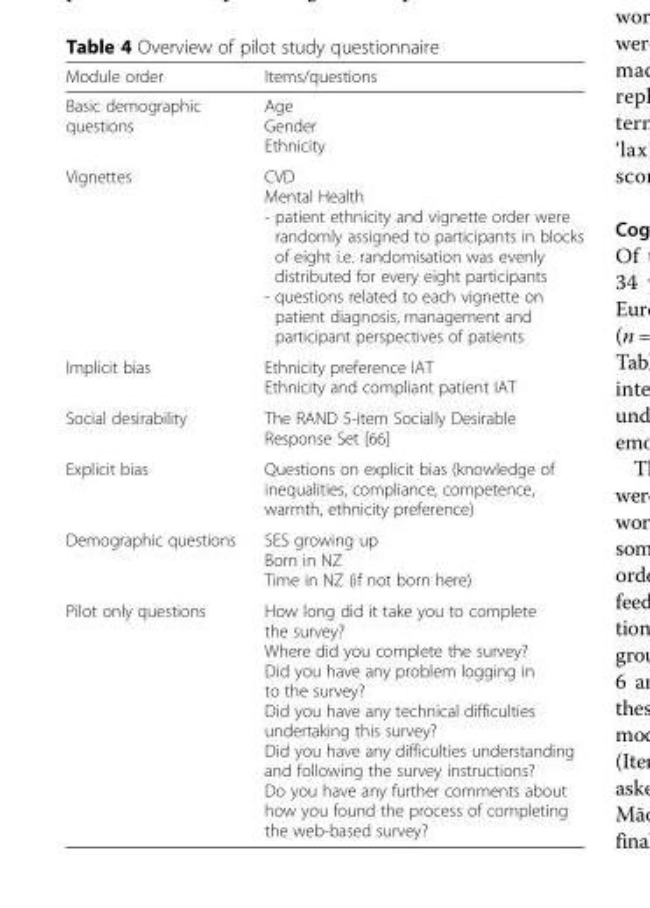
<table><thead><tr><td>Module order</td><td>Items/questions</td></tr></thead><tbody><tr><td>Basic demographic questions</td><td>Age Gender Ethnicity</td></tr><tr><td>Vignettes</td><td>CVD Mental Health - patient ethnicity and vignette order were randomly assigned to participants in blocks of eight i.e. randomisation was evenly distributed for every eight participants - questions related to each vignette on patient diagnosis, management and participant perspectives of patients</td></tr><tr><td>Implicit bias</td><td>Ethnicity preference IAT Ethnicity and compliant patient IAT</td></tr><tr><td>Social desirability</td><td>The RAND 5-item Socially Desirable Response Set [66]</td></tr><tr><td>Explicit bias</td><td>Questions on explicit bias (knowledge of inequalities, compliance, competence, warmth, ethnicity preference)</td></tr><tr><td>Demographic questions</td><td>SES growing up Born in NZ Time in NZ (if not born here)</td></tr><tr><td>Pilot only questions</td><td>How long did it take you to complete the survey? Where did you complete the survey? Did you have any problem logging in to the survey? Did you have any technical difficulties undertaking this survey? Did you have any difficulties understanding and following the survey instructions? Do you have any further comments about how you found the process of completing the web-based survey?</td></tr></tbody></table>